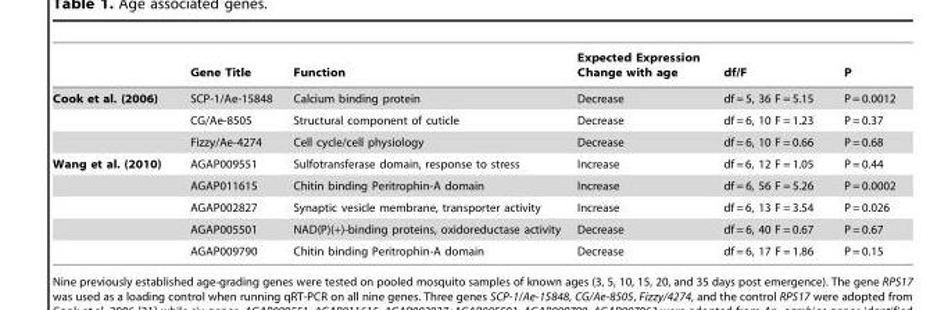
<table><thead><tr><td></td><td>Gene Title</td><td>Function</td><td>Expected Expression Change with age</td><td>df/F</td><td>P</td></tr></thead><tbody><tr><td rowspan="3">Cook et al. (2006)</td><td>SCP-1/Ae-15848</td><td>Calcium binding protein</td><td>Decrease</td><td>df = 5, 36 F = 5.15</td><td>P = 0.0012</td></tr><tr><td>CG/Ae-8505</td><td>Structural component of cuticle</td><td>Decrease</td><td>df = 6, 10 F = 1.23</td><td>P = 0.37</td></tr><tr><td>Fizzy/Ae-4274</td><td>Cell cycle/cell physiology</td><td>Decrease</td><td>df = 6, 10 F = 0.66</td><td>P = 0.68</td></tr><tr><td rowspan="5">Wang et al. (2010)</td><td>AGAP009551</td><td>Sulfotransferase domain, response to stress</td><td>Increase</td><td>df = 6, 12 F = 1.05</td><td>P = 0.44</td></tr><tr><td>AGAP011615</td><td>Chitin binding Peritrophin-A domain</td><td>Increase</td><td>df = 6, 56 F = 5.26</td><td>P = 0.0002</td></tr><tr><td>AGAP002827</td><td>Synaptic vesicle membrane, transporter activity</td><td>Increase</td><td>df = 6, 13 F = 3.54</td><td>P = 0.026</td></tr><tr><td>AGAP005501</td><td>NAD(P)(+)-binding proteins, oxidoreductase activity</td><td>Decrease</td><td>df = 6, 40 F = 0.67</td><td>P = 0.67</td></tr><tr><td>AGAP009790</td><td>Chitin binding Peritrophin-A domain</td><td>Decrease</td><td>df = 6, 17 F = 1.86</td><td>P = 0.15</td></tr></tbody></table>